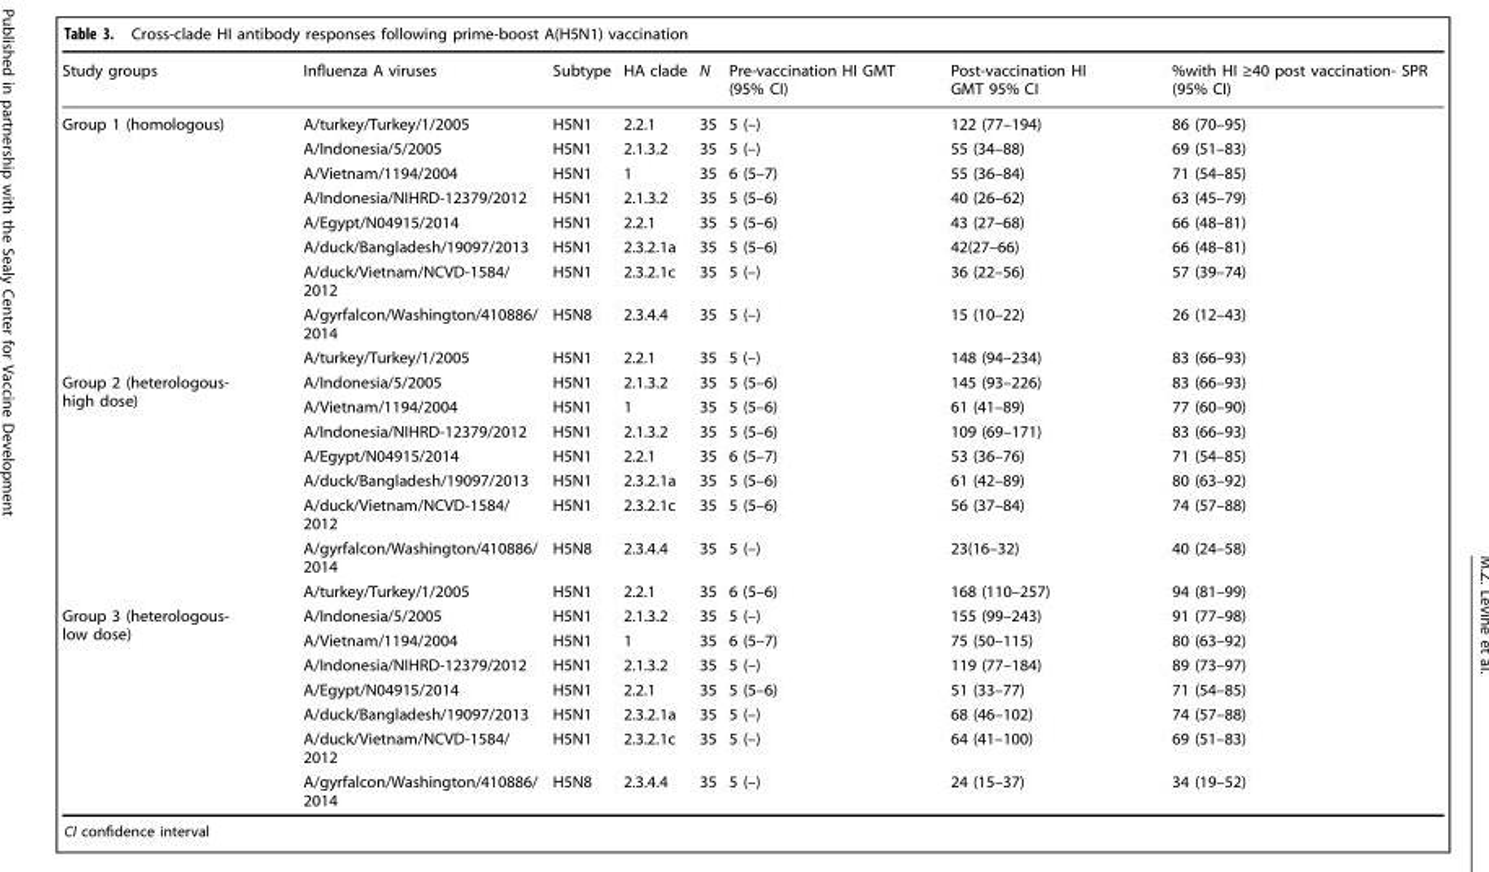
<table><thead><tr><td>Study groups</td><td>Influenza A viruses</td><td>Subtype</td><td>HA clade</td><td>N</td><td>Pre-vaccination HI GMT (95% CI)</td><td>Post-vaccination HI GMT 95% CI</td><td>%with HI ≥40 post vaccination- SPR (95% CI)</td></tr></thead><tbody><tr><td rowspan="9">Group 1 (homologous)</td><td>A/turkey/Turkey/1/2005</td><td>H5N1</td><td>2.2.1</td><td>35</td><td>5 (–)</td><td>122 (77–194)</td><td>86 (70–95)</td></tr><tr><td>A/Indonesia/5/2005</td><td>H5N1</td><td>2.1.3.2</td><td>35</td><td>5 (–)</td><td>55 (34–88)</td><td>69 (51–83)</td></tr><tr><td>A/Vietnam/1194/2004</td><td>H5N1</td><td>1</td><td>35</td><td>6 (5–7)</td><td>55 (36–84)</td><td>71 (54–85)</td></tr><tr><td>A/Indonesia/NIHRD-12379/2012</td><td>H5N1</td><td>2.1.3.2</td><td>35</td><td>5 (5–6)</td><td>40 (26–62)</td><td>63 (45–79)</td></tr><tr><td>A/Egypt/N04915/2014</td><td>H5N1</td><td>2.2.1</td><td>35</td><td>5 (5–6)</td><td>43 (27–68)</td><td>66 (48–81)</td></tr><tr><td>A/duck/Bangladesh/19097/2013</td><td>H5N1</td><td>2.3.2.1a</td><td>35</td><td>5 (5–6)</td><td>42(27–66)</td><td>66 (48–81)</td></tr><tr><td>A/duck/Vietnam/NCVD-1584/ 2012</td><td>H5N1</td><td>2.3.2.1c</td><td>35</td><td>5 (–)</td><td>36 (22–56)</td><td>57 (39–74)</td></tr><tr><td>A/gyrfalcon/Washington/410886/ 2014</td><td>H5N8</td><td>2.3.4.4</td><td>35</td><td>5 (–)</td><td>15 (10–22)</td><td>26 (12–43)</td></tr><tr><td>A/turkey/Turkey/1/2005</td><td>H5N1</td><td>2.2.1</td><td>35</td><td>5 (–)</td><td>148 (94–234)</td><td>83 (66–93)</td></tr><tr><td rowspan="8">Group 2 (heterologous- high dose)</td><td>A/Indonesia/5/2005</td><td>H5N1</td><td>2.1.3.2</td><td>35</td><td>5 (5–6)</td><td>145 (93–226)</td><td>83 (66–93)</td></tr><tr><td>A/Vietnam/1194/2004</td><td>H5N1</td><td>1</td><td>35</td><td>5 (5–6)</td><td>61 (41–89)</td><td>77 (60–90)</td></tr><tr><td>A/Indonesia/NIHRD-12379/2012</td><td>H5N1</td><td>2.1.3.2</td><td>35</td><td>5 (5–6)</td><td>109 (69–171)</td><td>83 (66–93)</td></tr><tr><td>A/Egypt/N04915/2014</td><td>H5N1</td><td>2.2.1</td><td>35</td><td>6 (5–7)</td><td>53 (36–76)</td><td>71 (54–85)</td></tr><tr><td>A/duck/Bangladesh/19097/2013</td><td>H5N1</td><td>2.3.2.1a</td><td>35</td><td>5 (5–6)</td><td>61 (42–89)</td><td>80 (63–92)</td></tr><tr><td>A/duck/Vietnam/NCVD-1584/ 2012</td><td>H5N1</td><td>2.3.2.1c</td><td>35</td><td>5 (5–6)</td><td>56 (37–84)</td><td>74 (57–88)</td></tr><tr><td>A/gyrfalcon/Washington/410886/ 2014</td><td>H5N8</td><td>2.3.4.4</td><td>35</td><td>5 (–)</td><td>23(16–32)</td><td>40 (24–58)</td></tr><tr><td>A/turkey/Turkey/1/2005</td><td>H5N1</td><td>2.2.1</td><td>35</td><td>6 (5–6)</td><td>168 (110–257)</td><td>94 (81–99)</td></tr><tr><td rowspan="7">Group 3 (heterologous- low dose)</td><td>A/Indonesia/5/2005</td><td>H5N1</td><td>2.1.3.2</td><td>35</td><td>5 (–)</td><td>155 (99–243)</td><td>91 (77–98)</td></tr><tr><td>A/Vietnam/1194/2004</td><td>H5N1</td><td>1</td><td>35</td><td>6 (5–7)</td><td>75 (50–115)</td><td>80 (63–92)</td></tr><tr><td>A/Indonesia/NIHRD-12379/2012</td><td>H5N1</td><td>2.1.3.2</td><td>35</td><td>5 (–)</td><td>119 (77–184)</td><td>89 (73–97)</td></tr><tr><td>A/Egypt/N04915/2014</td><td>H5N1</td><td>2.2.1</td><td>35</td><td>5 (5–6)</td><td>51 (33–77)</td><td>71 (54–85)</td></tr><tr><td>A/duck/Bangladesh/19097/2013</td><td>H5N1</td><td>2.3.2.1a</td><td>35</td><td>5 (–)</td><td>68 (46–102)</td><td>74 (57–88)</td></tr><tr><td>A/duck/Vietnam/NCVD-1584/ 2012</td><td>H5N1</td><td>2.3.2.1c</td><td>35</td><td>5 (–)</td><td>64 (41–100)</td><td>69 (51–83)</td></tr><tr><td>A/gyrfalcon/Washington/410886/ 2014</td><td>H5N8</td><td>2.3.4.4</td><td>35</td><td>5 (–)</td><td>24 (15–37)</td><td>34 (19–52)</td></tr></tbody></table>